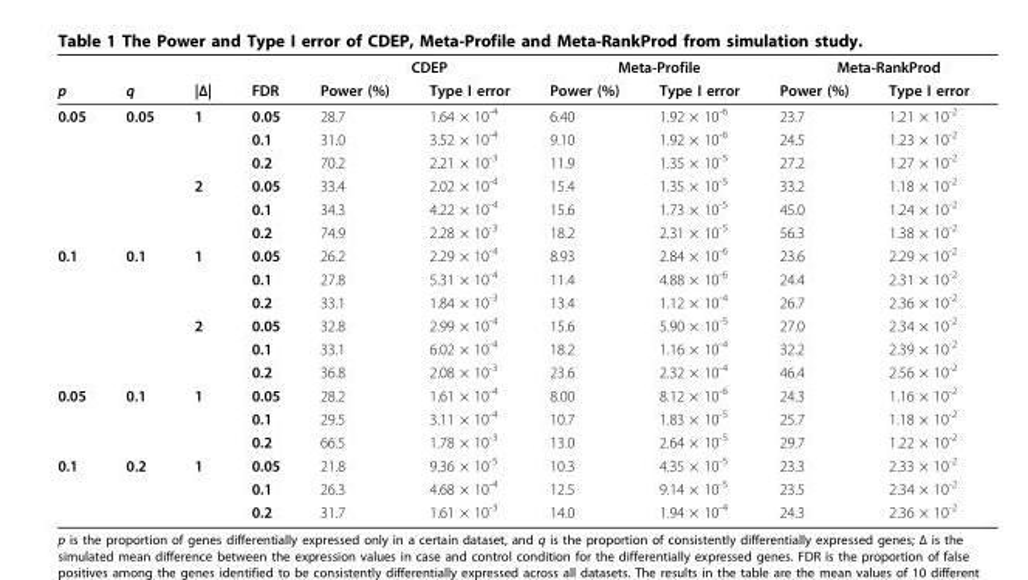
<table><thead><tr><td rowspan="2">p</td><td rowspan="2">q</td><td rowspan="2">|Δ|</td><td rowspan="2">FDR</td><td colspan="2">CDEP</td><td colspan="2">Meta-Profile</td><td colspan="2">Meta-RankProd</td></tr><tr><td>Power (%)</td><td>Type I error</td><td>Power (%)</td><td>Type I error</td><td>Power (%)</td><td>Type I error</td></tr></thead><tbody><tr><td rowspan="6">0.05</td><td>0.05</td><td>1</td><td>0.05</td><td>28.7</td><td>1.64 × 10<sup>-4</sup></td><td>6.40</td><td>1.92 × 10<sup>-6</sup></td><td>23.7</td><td>1.21 × 10<sup>-2</sup></td></tr><tr><td></td><td></td><td>0.1</td><td>31.0</td><td>3.52 × 10<sup>-4</sup></td><td>9.10</td><td>1.92 × 10<sup>-6</sup></td><td>24.5</td><td>1.23 × 10<sup>-2</sup></td></tr><tr><td></td><td></td><td>0.2</td><td>70.2</td><td>2.21 × 10<sup>-3</sup></td><td>11.9</td><td>1.35 × 10<sup>-5</sup></td><td>27.2</td><td>1.27 × 10<sup>-2</sup></td></tr><tr><td></td><td>2</td><td>0.05</td><td>33.4</td><td>2.02 × 10<sup>-4</sup></td><td>15.4</td><td>1.35 × 10<sup>-5</sup></td><td>33.2</td><td>1.18 × 10<sup>-2</sup></td></tr><tr><td></td><td></td><td>0.1</td><td>34.3</td><td>4.22 × 10<sup>-4</sup></td><td>15.6</td><td>1.73 × 10<sup>-5</sup></td><td>45.0</td><td>1.24 × 10<sup>-2</sup></td></tr><tr><td></td><td></td><td>0.2</td><td>74.9</td><td>2.28 × 10<sup>-3</sup></td><td>18.2</td><td>2.31 × 10<sup>-5</sup></td><td>56.3</td><td>1.38 × 10<sup>-2</sup></td></tr><tr><td rowspan="6">0.1</td><td>0.1</td><td>1</td><td>0.05</td><td>26.2</td><td>2.29 × 10<sup>-4</sup></td><td>8.93</td><td>2.84 × 10<sup>-6</sup></td><td>23.6</td><td>2.29 × 10<sup>-2</sup></td></tr><tr><td></td><td></td><td>0.1</td><td>27.8</td><td>5.31 × 10<sup>-4</sup></td><td>11.4</td><td>4.88 × 10<sup>-6</sup></td><td>24.4</td><td>2.31 × 10<sup>-2</sup></td></tr><tr><td></td><td></td><td>0.2</td><td>33.1</td><td>1.84 × 10<sup>-3</sup></td><td>13.4</td><td>1.12 × 10<sup>-4</sup></td><td>26.7</td><td>2.36 × 10<sup>-2</sup></td></tr><tr><td></td><td>2</td><td>0.05</td><td>32.8</td><td>2.99 × 10<sup>-4</sup></td><td>15.6</td><td>5.90 × 10<sup>-5</sup></td><td>27.0</td><td>2.34 × 10<sup>-2</sup></td></tr><tr><td></td><td></td><td>0.1</td><td>33.1</td><td>6.02 × 10<sup>-4</sup></td><td>18.2</td><td>1.16 × 10<sup>-4</sup></td><td>32.2</td><td>2.39 × 10<sup>-2</sup></td></tr><tr><td></td><td></td><td>0.2</td><td>36.8</td><td>2.08 × 10<sup>-3</sup></td><td>23.6</td><td>2.32 × 10<sup>-4</sup></td><td>46.4</td><td>2.56 × 10<sup>-2</sup></td></tr><tr><td rowspan="3">0.05</td><td>0.1</td><td>1</td><td>0.05</td><td>28.2</td><td>1.61 × 10<sup>-4</sup></td><td>8.00</td><td>8.12 × 10<sup>-6</sup></td><td>24.3</td><td>1.16 × 10<sup>-2</sup></td></tr><tr><td></td><td></td><td>0.1</td><td>29.5</td><td>3.11 × 10<sup>-4</sup></td><td>10.7</td><td>1.83 × 10<sup>-5</sup></td><td>25.7</td><td>1.18 × 10<sup>-2</sup></td></tr><tr><td></td><td></td><td>0.2</td><td>66.5</td><td>1.78 × 10<sup>-3</sup></td><td>13.0</td><td>2.64 × 10<sup>-5</sup></td><td>29.7</td><td>1.22 × 10<sup>-2</sup></td></tr><tr><td rowspan="3">0.1</td><td>0.2</td><td>1</td><td>0.05</td><td>21.8</td><td>9.36 × 10<sup>-5</sup></td><td>10.3</td><td>4.35 × 10<sup>-5</sup></td><td>23.3</td><td>2.33 × 10<sup>-2</sup></td></tr><tr><td></td><td></td><td>0.1</td><td>26.3</td><td>4.68 × 10<sup>-4</sup></td><td>12.5</td><td>9.14 × 10<sup>-5</sup></td><td>23.5</td><td>2.34 × 10<sup>-2</sup></td></tr><tr><td></td><td></td><td>0.2</td><td>31.7</td><td>1.61 × 10<sup>-3</sup></td><td>14.0</td><td>1.94 × 10<sup>-4</sup></td><td>24.3</td><td>2.36 × 10<sup>-2</sup></td></tr></tbody></table>